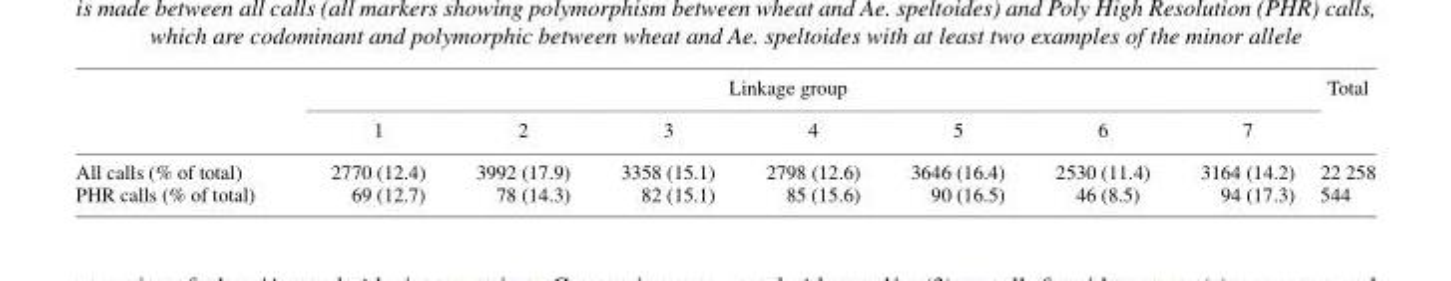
<table><thead><tr><td rowspan="2"></td><td colspan="7">Linkage group</td><td rowspan="2">Total</td></tr><tr><td>1</td><td>2</td><td>3</td><td>4</td><td>5</td><td>6</td><td>7</td></tr></thead><tbody><tr><td>All calls (% of total)</td><td>2770 (12.4)</td><td>3992 (17.9)</td><td>3358 (15.1)</td><td>2798 (12.6)</td><td>3646 (16.4)</td><td>2530 (11.4)</td><td>3164 (14.2)</td><td>22 258</td></tr><tr><td>PHR calls (% of total)</td><td>69 (12.7)</td><td>78 (14.3)</td><td>82 (15.1)</td><td>85 (15.6)</td><td>90 (16.5)</td><td>46 (8.5)</td><td>94 (17.3)</td><td>544</td></tr></tbody></table>